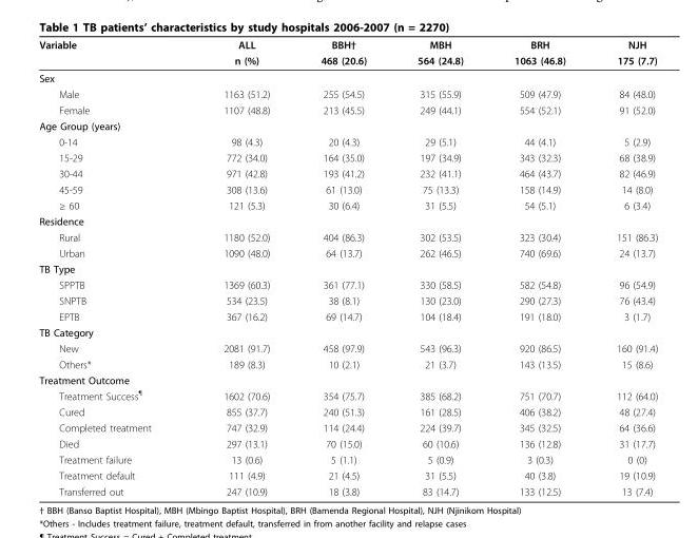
<table><thead><tr><td rowspan="2">Variable</td><td rowspan="2">ALL n (%)</td><td rowspan="2">BBH† 468 (20.6)</td><td rowspan="2">MBH 564 (24.8)</td><td rowspan="2">BRH 1063 (46.8)</td><td rowspan="2">NJH 175 (7.7)</td></tr><tr></tr></thead><tbody><tr><td colspan="6">Sex</td></tr><tr><td>Male</td><td>1163 (51.2)</td><td>255 (54.5)</td><td>315 (55.9)</td><td>509 (47.9)</td><td>84 (48.0)</td></tr><tr><td>Female</td><td>1107 (48.8)</td><td>213 (45.5)</td><td>249 (44.1)</td><td>554 (52.1)</td><td>91 (52.0)</td></tr><tr><td colspan="6">Age Group (years)</td></tr><tr><td>0-14</td><td>98 (4.3)</td><td>20 (4.3)</td><td>29 (5.1)</td><td>44 (4.1)</td><td>5 (2.9)</td></tr><tr><td>15-29</td><td>772 (34.0)</td><td>164 (35.0)</td><td>197 (34.9)</td><td>343 (32.3)</td><td>68 (38.9)</td></tr><tr><td>30-44</td><td>971 (42.8)</td><td>193 (41.2)</td><td>232 (41.1)</td><td>464 (43.7)</td><td>82 (46.9)</td></tr><tr><td>45-59</td><td>308 (13.6)</td><td>61 (13.0)</td><td>75 (13.3)</td><td>158 (14.9)</td><td>14 (8.0)</td></tr><tr><td>≥ 60</td><td>121 (5.3)</td><td>30 (6.4)</td><td>31 (5.5)</td><td>54 (5.1)</td><td>6 (3.4)</td></tr><tr><td colspan="6">Residence</td></tr><tr><td>Rural</td><td>1180 (52.0)</td><td>404 (86.3)</td><td>302 (53.5)</td><td>323 (30.4)</td><td>151 (86.3)</td></tr><tr><td>Urban</td><td>1090 (48.0)</td><td>64 (13.7)</td><td>262 (46.5)</td><td>740 (69.6)</td><td>24 (13.7)</td></tr><tr><td colspan="6">TB Type</td></tr><tr><td>SPPTB</td><td>1369 (60.3)</td><td>361 (77.1)</td><td>330 (58.5)</td><td>582 (54.8)</td><td>96 (54.9)</td></tr><tr><td>SNPTB</td><td>534 (23.5)</td><td>38 (8.1)</td><td>130 (23.0)</td><td>290 (27.3)</td><td>76 (43.4)</td></tr><tr><td>EPTB</td><td>367 (16.2)</td><td>69 (14.7)</td><td>104 (18.4)</td><td>191 (18.0)</td><td>3 (1.7)</td></tr><tr><td colspan="6">TB Category</td></tr><tr><td>New</td><td>2081 (91.7)</td><td>458 (97.9)</td><td>543 (96.3)</td><td>920 (86.5)</td><td>160 (91.4)</td></tr><tr><td>Others*</td><td>189 (8.3)</td><td>10 (2.1)</td><td>21 (3.7)</td><td>143 (13.5)</td><td>15 (8.6)</td></tr><tr><td colspan="6">Treatment Outcome</td></tr><tr><td>Treatment Success<sup>¶</sup></td><td>1602 (70.6)</td><td>354 (75.7)</td><td>385 (68.2)</td><td>751 (70.7)</td><td>112 (64.0)</td></tr><tr><td>Cured</td><td>855 (37.7)</td><td>240 (51.3)</td><td>161 (28.5)</td><td>406 (38.2)</td><td>48 (27.4)</td></tr><tr><td>Completed treatment</td><td>747 (32.9)</td><td>114 (24.4)</td><td>224 (39.7)</td><td>345 (32.5)</td><td>64 (36.6)</td></tr><tr><td>Died</td><td>297 (13.1)</td><td>70 (15.0)</td><td>60 (10.6)</td><td>136 (12.8)</td><td>31 (17.7)</td></tr><tr><td>Treatment failure</td><td>13 (0.6)</td><td>5 (1.1)</td><td>5 (0.9)</td><td>3 (0.3)</td><td>0 (0)</td></tr><tr><td>Treatment default</td><td>111 (4.9)</td><td>21 (4.5)</td><td>31 (5.5)</td><td>40 (3.8)</td><td>19 (10.9)</td></tr><tr><td>Transferred out</td><td>247 (10.9)</td><td>18 (3.8)</td><td>83 (14.7)</td><td>133 (12.5)</td><td>13 (7.4)</td></tr></tbody></table>